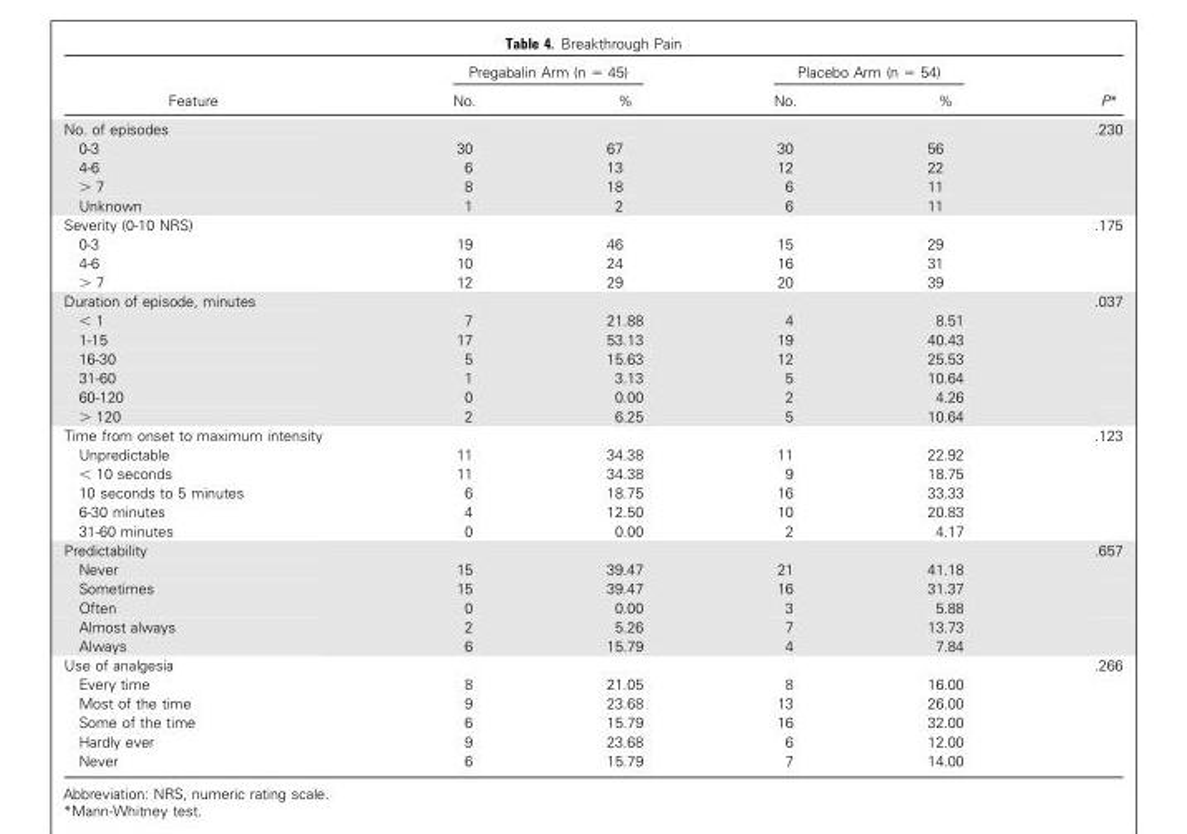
<table><thead><tr><td rowspan="2">Feature</td><td colspan="2">Pregabalin Arm (n = 45)</td><td colspan="2">Placebo Arm (n = 54)</td><td rowspan="2">P*</td></tr><tr><td>No.</td><td>%</td><td>No.</td><td>%</td></tr></thead><tbody><tr><td>No. of episodes</td><td></td><td></td><td></td><td></td><td>.230</td></tr><tr><td>0-3</td><td>30</td><td>67</td><td>30</td><td>56</td><td></td></tr><tr><td>4-6</td><td>6</td><td>13</td><td>12</td><td>22</td><td></td></tr><tr><td>&gt; 7</td><td>8</td><td>18</td><td>6</td><td>11</td><td></td></tr><tr><td>Unknown</td><td>1</td><td>2</td><td>6</td><td>11</td><td></td></tr><tr><td>Severity (0-10 NRS)</td><td></td><td></td><td></td><td></td><td>.175</td></tr><tr><td>0-3</td><td>19</td><td>46</td><td>15</td><td>29</td><td></td></tr><tr><td>4-6</td><td>10</td><td>24</td><td>16</td><td>31</td><td></td></tr><tr><td>&gt; 7</td><td>12</td><td>29</td><td>20</td><td>39</td><td></td></tr><tr><td>Duration of episode, minutes</td><td></td><td></td><td></td><td></td><td>.037</td></tr><tr><td>&lt; 1</td><td>7</td><td>21.88</td><td>4</td><td>8.51</td><td></td></tr><tr><td>1-15</td><td>17</td><td>53.13</td><td>19</td><td>40.43</td><td></td></tr><tr><td>16-30</td><td>5</td><td>15.63</td><td>12</td><td>25.53</td><td></td></tr><tr><td>31-60</td><td>1</td><td>3.13</td><td>5</td><td>10.64</td><td></td></tr><tr><td>60-120</td><td>0</td><td>0.00</td><td>2</td><td>4.26</td><td></td></tr><tr><td>&gt; 120</td><td>2</td><td>6.25</td><td>5</td><td>10.64</td><td></td></tr><tr><td>Time from onset to maximum intensity</td><td></td><td></td><td></td><td></td><td>.123</td></tr><tr><td>Unpredictable</td><td>11</td><td>34.38</td><td>11</td><td>22.92</td><td></td></tr><tr><td>&lt; 10 seconds</td><td>11</td><td>34.38</td><td>9</td><td>18.75</td><td></td></tr><tr><td>10 seconds to 5 minutes</td><td>6</td><td>18.75</td><td>16</td><td>33.33</td><td></td></tr><tr><td>6-30 minutes</td><td>4</td><td>12.50</td><td>10</td><td>20.83</td><td></td></tr><tr><td>31-60 minutes</td><td>0</td><td>0.00</td><td>2</td><td>4.17</td><td></td></tr><tr><td>Predictability</td><td></td><td></td><td></td><td></td><td>.657</td></tr><tr><td>Never</td><td>15</td><td>39.47</td><td>21</td><td>41.18</td><td></td></tr><tr><td>Sometimes</td><td>15</td><td>39.47</td><td>16</td><td>31.37</td><td></td></tr><tr><td>Often</td><td>0</td><td>0.00</td><td>3</td><td>5.88</td><td></td></tr><tr><td>Almost always</td><td>2</td><td>5.26</td><td>7</td><td>13.73</td><td></td></tr><tr><td>Always</td><td>6</td><td>15.79</td><td>4</td><td>7.84</td><td></td></tr><tr><td>Use of analgesia</td><td></td><td></td><td></td><td></td><td>.266</td></tr><tr><td>Every time</td><td>8</td><td>21.05</td><td>8</td><td>16.00</td><td></td></tr><tr><td>Most of the time</td><td>9</td><td>23.68</td><td>13</td><td>26.00</td><td></td></tr><tr><td>Some of the time</td><td>6</td><td>15.79</td><td>16</td><td>32.00</td><td></td></tr><tr><td>Hardly ever</td><td>9</td><td>23.68</td><td>6</td><td>12.00</td><td></td></tr><tr><td>Never</td><td>6</td><td>15.79</td><td>7</td><td>14.00</td><td></td></tr></tbody></table>